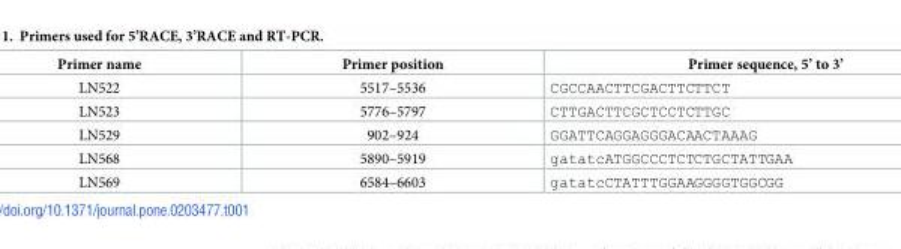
<table><thead><tr><td>Primer name</td><td>Primer position</td><td>Primer sequence, 5’ to 3’</td></tr></thead><tbody><tr><td>LN522</td><td>5517–5536</td><td>CGCCAACTTCGACTTCTTCT</td></tr><tr><td>LN523</td><td>5776–5797</td><td>CTTGACTTCGCTCCTCTTGC</td></tr><tr><td>LN529</td><td>902–924</td><td>GGATTCAGGAGGGACAACTAAAG</td></tr><tr><td>LN568</td><td>5890–5919</td><td>gatatcATGGCCCTCTCTGCTATTGAA</td></tr><tr><td>LN569</td><td>6584–6603</td><td>gatatcCTATTTGGAAGGGGTGGCGG</td></tr></tbody></table>